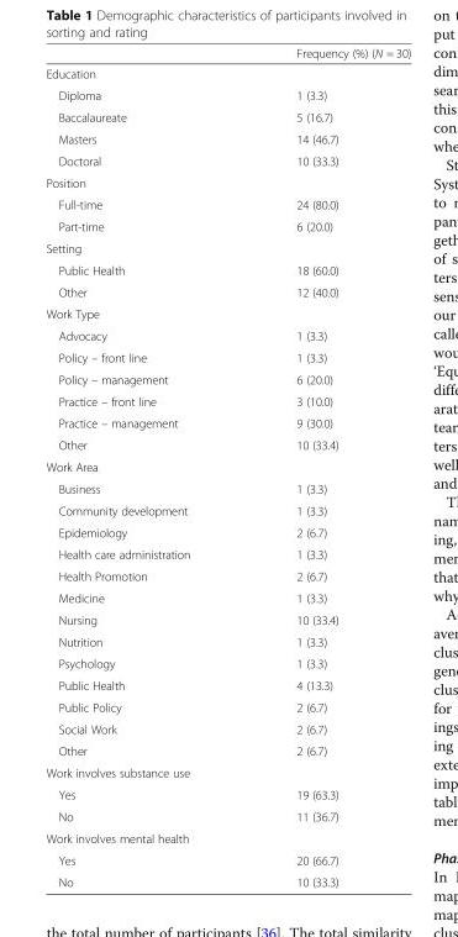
<table><thead><tr><td></td><td>Frequency (%) (N = 30)</td></tr></thead><tbody><tr><td colspan="2">Education</td></tr><tr><td>Diploma</td><td>1 (3.3)</td></tr><tr><td>Baccalaureate</td><td>5 (16.7)</td></tr><tr><td>Masters</td><td>14 (46.7)</td></tr><tr><td>Doctoral</td><td>10 (33.3)</td></tr><tr><td colspan="2">Position</td></tr><tr><td>Full-time</td><td>24 (80.0)</td></tr><tr><td>Part-time</td><td>6 (20.0)</td></tr><tr><td colspan="2">Setting</td></tr><tr><td>Public Health</td><td>18 (60.0)</td></tr><tr><td>Other</td><td>12 (40.0)</td></tr><tr><td colspan="2">Work Type</td></tr><tr><td>Advocacy</td><td>1 (3.3)</td></tr><tr><td>Policy – front line</td><td>1 (3.3)</td></tr><tr><td>Policy – management</td><td>6 (20.0)</td></tr><tr><td>Practice – front line</td><td>3 (10.0)</td></tr><tr><td>Practice – management</td><td>9 (30.0)</td></tr><tr><td>Other</td><td>10 (33.4)</td></tr><tr><td colspan="2">Work Area</td></tr><tr><td>Business</td><td>1 (3.3)</td></tr><tr><td>Community development</td><td>1 (3.3)</td></tr><tr><td>Epidemiology</td><td>2 (6.7)</td></tr><tr><td>Health care administration</td><td>1 (3.3)</td></tr><tr><td>Health Promotion</td><td>2 (6.7)</td></tr><tr><td>Medicine</td><td>1 (3.3)</td></tr><tr><td>Nursing</td><td>10 (33.4)</td></tr><tr><td>Nutrition</td><td>1 (3.3)</td></tr><tr><td>Psychology</td><td>1 (3.3)</td></tr><tr><td>Public Health</td><td>4 (13.3)</td></tr><tr><td>Public Policy</td><td>2 (6.7)</td></tr><tr><td>Social Work</td><td>2 (6.7)</td></tr><tr><td>Other</td><td>2 (6.7)</td></tr><tr><td colspan="2">Work involves substance use</td></tr><tr><td>Yes</td><td>19 (63.3)</td></tr><tr><td>No</td><td>11 (36.7)</td></tr><tr><td colspan="2">Work involves mental health</td></tr><tr><td>Yes</td><td>20 (66.7)</td></tr><tr><td>No</td><td>10 (33.3)</td></tr></tbody></table>